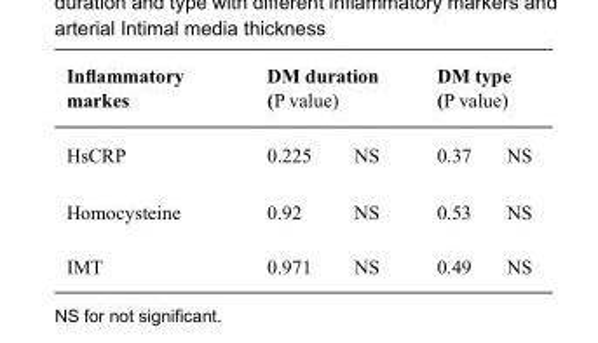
<table><thead><tr><td rowspan="2">Inflammatory markes HsCRP</td><td colspan="2">DM duration (P value)</td><td colspan="2">DM type (P value)</td></tr><tr><td>0.225</td><td>NS</td><td>0.37</td><td>NS</td></tr></thead><tbody><tr><td>Homocysteine</td><td>0.92</td><td>NS</td><td>0.53</td><td>NS</td></tr><tr><td>IMT</td><td>0.971</td><td>NS</td><td>0.49</td><td>NS</td></tr></tbody></table>